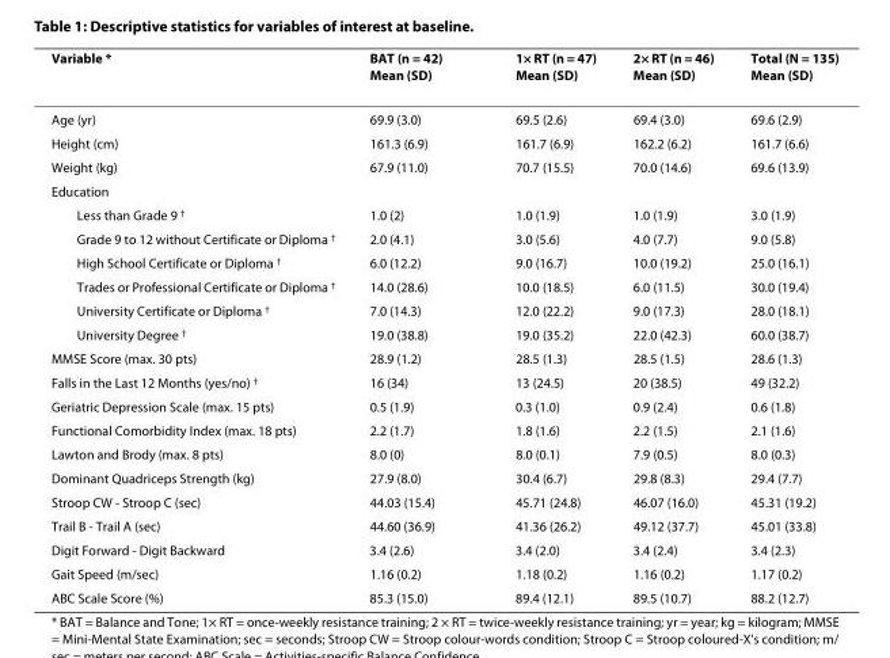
<table><thead><tr><td>Variable *</td><td>BAT (n = 42) Mean (SD)</td><td>1× RT (n = 47) Mean (SD)</td><td>2× RT (n = 46) Mean (SD)</td><td>Total (N = 135) Mean (SD)</td></tr></thead><tbody><tr><td>Age (yr)</td><td>69.9 (3.0)</td><td>69.5 (2.6)</td><td>69.4 (3.0)</td><td>69.6 (2.9)</td></tr><tr><td>Height (cm)</td><td>161.3 (6.9)</td><td>161.7 (6.9)</td><td>162.2 (6.2)</td><td>161.7 (6.6)</td></tr><tr><td>Weight (kg)</td><td>67.9 (11.0)</td><td>70.7 (15.5)</td><td>70.0 (14.6)</td><td>69.6 (13.9)</td></tr><tr><td colspan="5">Education</td></tr><tr><td>Less than Grade 9 <sup>†</sup></td><td>1.0 (2)</td><td>1.0 (1.9)</td><td>1.0 (1.9)</td><td>3.0 (1.9)</td></tr><tr><td>Grade 9 to 12 without Certificate or Diploma <sup>†</sup></td><td>2.0 (4.1)</td><td>3.0 (5.6)</td><td>4.0 (7.7)</td><td>9.0 (5.8)</td></tr><tr><td>High School Certificate or Diploma <sup>†</sup></td><td>6.0 (12.2)</td><td>9.0 (16.7)</td><td>10.0 (19.2)</td><td>25.0 (16.1)</td></tr><tr><td>Trades or Professional Certificate or Diploma <sup>†</sup></td><td>14.0 (28.6)</td><td>10.0 (18.5)</td><td>6.0 (11.5)</td><td>30.0 (19.4)</td></tr><tr><td>University Certificate or Diploma <sup>†</sup></td><td>7.0 (14.3)</td><td>12.0 (22.2)</td><td>9.0 (17.3)</td><td>28.0 (18.1)</td></tr><tr><td>University Degree <sup>†</sup></td><td>19.0 (38.8)</td><td>19.0 (35.2)</td><td>22.0 (42.3)</td><td>60.0 (38.7)</td></tr><tr><td>MMSE Score (max. 30 pts)</td><td>28.9 (1.2)</td><td>28.5 (1.3)</td><td>28.5 (1.5)</td><td>28.6 (1.3)</td></tr><tr><td>Falls in the Last 12 Months (yes/no) <sup>†</sup></td><td>16 (34)</td><td>13 (24.5)</td><td>20 (38.5)</td><td>49 (32.2)</td></tr><tr><td>Geriatric Depression Scale (max. 15 pts)</td><td>0.5 (1.9)</td><td>0.3 (1.0)</td><td>0.9 (2.4)</td><td>0.6 (1.8)</td></tr><tr><td>Functional Comorbidity Index (max. 18 pts)</td><td>2.2 (1.7)</td><td>1.8 (1.6)</td><td>2.2 (1.5)</td><td>2.1 (1.6)</td></tr><tr><td>Lawton and Brody (max. 8 pts)</td><td>8.0 (0)</td><td>8.0 (0.1)</td><td>7.9 (0.5)</td><td>8.0 (0.3)</td></tr><tr><td>Dominant Quadriceps Strength (kg)</td><td>27.9 (8.0)</td><td>30.4 (6.7)</td><td>29.8 (8.3)</td><td>29.4 (7.7)</td></tr><tr><td>Stroop CW - Stroop C (sec)</td><td>44.03 (15.4)</td><td>45.71 (24.8)</td><td>46.07 (16.0)</td><td>45.31 (19.2)</td></tr><tr><td>Trail B - Trail A (sec)</td><td>44.60 (36.9)</td><td>41.36 (26.2)</td><td>49.12 (37.7)</td><td>45.01 (33.8)</td></tr><tr><td>Digit Forward - Digit Backward</td><td>3.4 (2.6)</td><td>3.4 (2.0)</td><td>3.4 (2.4)</td><td>3.4 (2.3)</td></tr><tr><td>Gait Speed (m/sec)</td><td>1.16 (0.2)</td><td>1.18 (0.2)</td><td>1.16 (0.2)</td><td>1.17 (0.2)</td></tr><tr><td>ABC Scale Score (%)</td><td>85.3 (15.0)</td><td>89.4 (12.1)</td><td>89.5 (10.7)</td><td>88.2 (12.7)</td></tr></tbody></table>